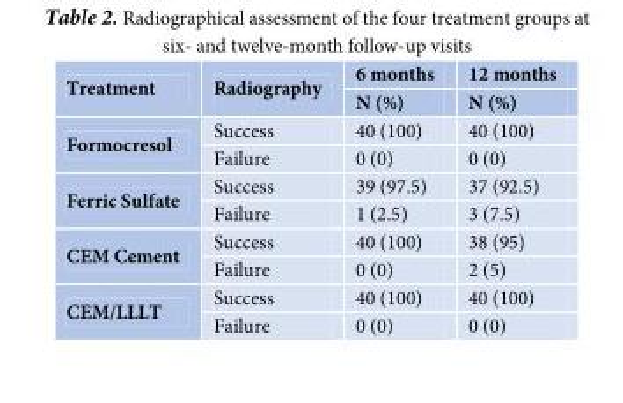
<table><thead><tr><td rowspan="2">Treatment</td><td rowspan="2">Radiography</td><td rowspan="2">6 months N (%)</td><td rowspan="2">12 months N (%)</td></tr><tr></tr></thead><tbody><tr><td rowspan="2">Formocresol</td><td>Success</td><td>40 (100)</td><td>40 (100)</td></tr><tr><td>Failure</td><td>0 (0)</td><td>0 (0)</td></tr><tr><td rowspan="2">Ferric Sulfate</td><td>Success</td><td>39 (97.5)</td><td>37 (92.5)</td></tr><tr><td>Failure</td><td>1 (2.5)</td><td>3 (7.5)</td></tr><tr><td rowspan="2">CEM Cement</td><td>Success</td><td>40 (100)</td><td>38 (95)</td></tr><tr><td>Failure</td><td>0 (0)</td><td>2 (5)</td></tr><tr><td rowspan="2">CEM/LLLT</td><td>Success</td><td>40 (100)</td><td>40 (100)</td></tr><tr><td>Failure</td><td>0 (0)</td><td>0 (0)</td></tr></tbody></table>